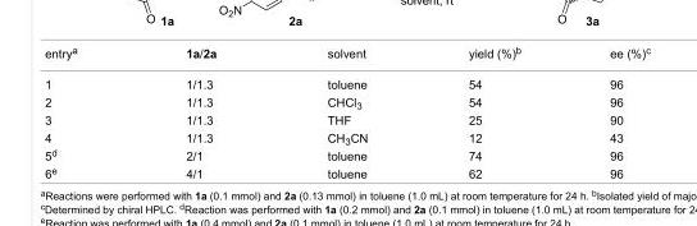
<table><tbody><tr><td>entry<sup>a</sup></td><td>1a/2a</td><td>solvent</td><td>yield (%)<sup>b</sup></td><td>ee (%)<sup>c</sup></td></tr><tr><td>1</td><td>1/1.3</td><td>toluene</td><td>54</td><td>96</td></tr><tr><td>2</td><td>1/1.3</td><td>CHCl<sub>3</sub></td><td>54</td><td>96</td></tr><tr><td>3</td><td>1/1.3</td><td>THF</td><td>25</td><td>90</td></tr><tr><td>4</td><td>1/1.3</td><td>CH<sub>3</sub>CN</td><td>12</td><td>43</td></tr><tr><td>5<sup>d</sup></td><td>2/1</td><td>toluene</td><td>74</td><td>96</td></tr><tr><td>6<sup>e</sup></td><td>4/1</td><td>toluene</td><td>62</td><td>96</td></tr></tbody></table>